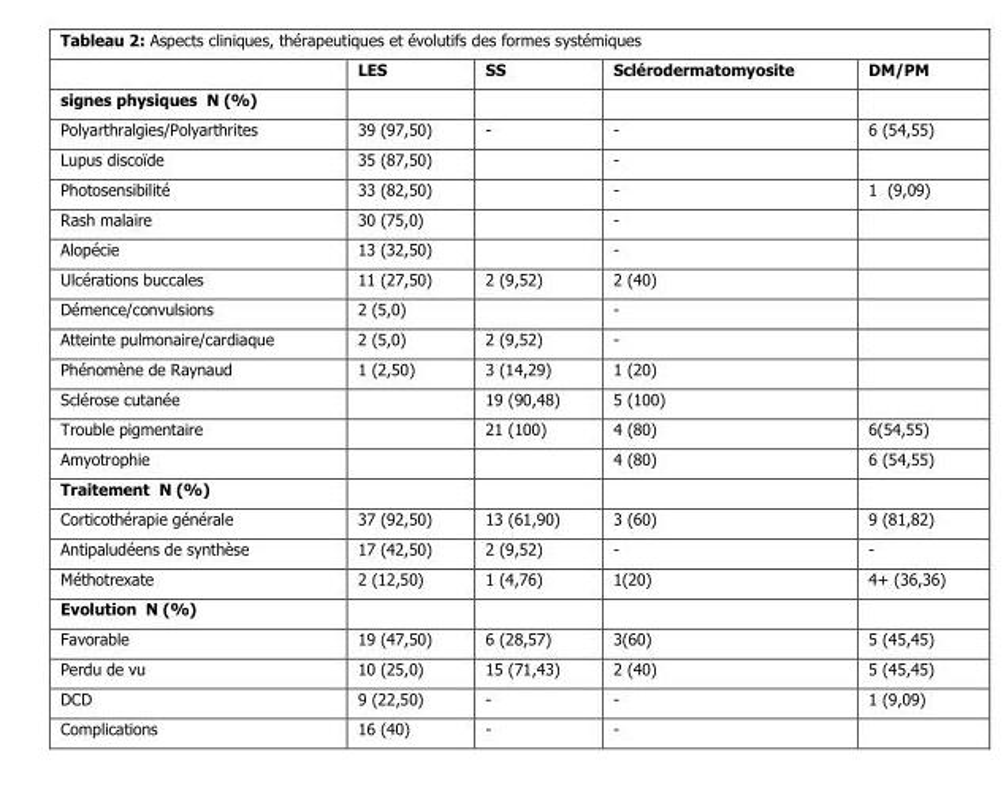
<table><thead><tr><td></td><td>LES</td><td>SS</td><td>Sclérodermatomyosite</td><td>DM/PM</td></tr></thead><tbody><tr><td colspan="5">signes physiques N (%)</td></tr><tr><td>Polyarthralgies/Polyarthrites</td><td>39 (97,50)</td><td>-</td><td>-</td><td>6 (54,55)</td></tr><tr><td>Lupus discoïde</td><td>35 (87,50)</td><td></td><td>-</td><td></td></tr><tr><td>Photosensibilité</td><td>33 (82,50)</td><td></td><td>-</td><td>1 (9,09)</td></tr><tr><td>Rash malaire</td><td>30 (75,0)</td><td></td><td>-</td><td></td></tr><tr><td>Alopécie</td><td>13 (32,50)</td><td></td><td>-</td><td></td></tr><tr><td>Ulcérations buccales</td><td>11 (27,50)</td><td>2 (9,52)</td><td>2 (40)</td><td></td></tr><tr><td>Démence/convulsions</td><td>2 (5,0)</td><td></td><td>-</td><td></td></tr><tr><td>Atteinte pulmonaire/cardiaque</td><td>2 (5,0)</td><td>2 (9,52)</td><td>-</td><td></td></tr><tr><td>Phénomène de Raynaud</td><td>1 (2,50)</td><td>3 (14,29)</td><td>1 (20)</td><td></td></tr><tr><td>Sclérose cutanée</td><td></td><td>19 (90,48)</td><td>5 (100)</td><td></td></tr><tr><td>Trouble pigmentaire</td><td></td><td>21 (100)</td><td>4 (80)</td><td>6(54,55)</td></tr><tr><td>Amyotrophie</td><td></td><td></td><td>4 (80)</td><td>6 (54,55)</td></tr><tr><td colspan="5">Traitement N (%)</td></tr><tr><td>Corticothérapie générale</td><td>37 (92,50)</td><td>13 (61,90)</td><td>3 (60)</td><td>9 (81,82)</td></tr><tr><td>Antipaludéens de synthèse</td><td>17 (42,50)</td><td>2 (9,52)</td><td>-</td><td>-</td></tr><tr><td>Méthotrexate</td><td>2 (12,50)</td><td>1 (4,76)</td><td>1(20)</td><td>4+ (36,36)</td></tr><tr><td colspan="5">Evolution N (%)</td></tr><tr><td>Favorable</td><td>19 (47,50)</td><td>6 (28,57)</td><td>3(60)</td><td>5 (45,45)</td></tr><tr><td>Perdu de vu</td><td>10 (25,0)</td><td>15 (71,43)</td><td>2 (40)</td><td>5 (45,45)</td></tr><tr><td>DCD</td><td>9 (22,50)</td><td>-</td><td>-</td><td>1 (9,09)</td></tr><tr><td>Complications</td><td>16 (40)</td><td>-</td><td>-</td><td></td></tr></tbody></table>